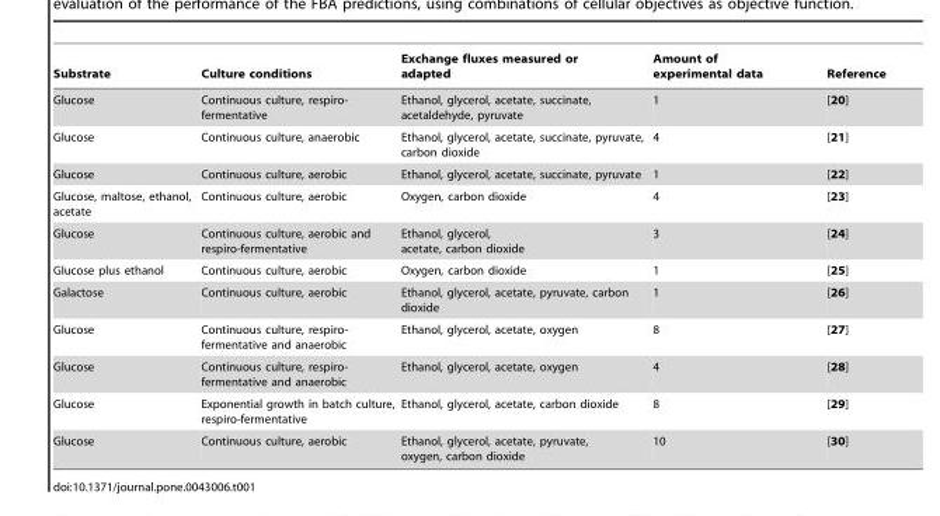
<table><thead><tr><td>Substrate</td><td>Culture conditions</td><td>Exchange fluxes measured or adapted</td><td>Amount of experimental data</td><td>Reference</td></tr></thead><tbody><tr><td>Glucose</td><td>Continuous culture, respiro- fermentative</td><td>Ethanol, glycerol, acetate, succinate, acetaldehyde, pyruvate</td><td>1</td><td>[20]</td></tr><tr><td>Glucose</td><td>Continuous culture, anaerobic</td><td>Ethanol, glycerol, acetate, succinate, pyruvate, carbon dioxide</td><td>4</td><td>[21]</td></tr><tr><td>Glucose</td><td>Continuous culture, aerobic</td><td>Ethanol, glycerol, acetate, succinate, pyruvate</td><td>1</td><td>[22]</td></tr><tr><td>Glucose, maltose, ethanol, acetate</td><td>Continuous culture, aerobic</td><td>Oxygen, carbon dioxide</td><td>4</td><td>[23]</td></tr><tr><td>Glucose</td><td>Continuous culture, aerobic and respiro-fermentative</td><td>Ethanol, glycerol, acetate, carbon dioxide</td><td>3</td><td>[24]</td></tr><tr><td>Glucose plus ethanol</td><td>Continuous culture, aerobic</td><td>Oxygen, carbon dioxide</td><td>1</td><td>[25]</td></tr><tr><td>Galactose</td><td>Continuous culture, aerobic</td><td>Ethanol, glycerol, acetate, pyruvate, carbon dioxide</td><td>1</td><td>[26]</td></tr><tr><td>Glucose</td><td>Continuous culture, respiro- fermentative and anaerobic</td><td>Ethanol, glycerol, acetate, oxygen</td><td>8</td><td>[27]</td></tr><tr><td>Glucose</td><td>Continuous culture, respiro- fermentative and anaerobic</td><td>Ethanol, glycerol, acetate, oxygen</td><td>4</td><td>[28]</td></tr><tr><td>Glucose</td><td>Exponential growth in batch culture, respiro-fermentative</td><td>Ethanol, glycerol, acetate, carbon dioxide</td><td>8</td><td>[29]</td></tr><tr><td>Glucose</td><td>Continuous culture, aerobic</td><td>Ethanol, glycerol, acetate, pyruvate, oxygen, carbon dioxide</td><td>10</td><td>[30]</td></tr></tbody></table>